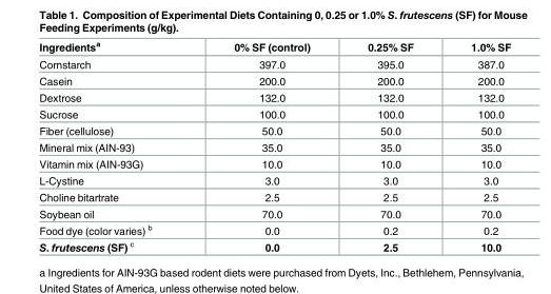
<table><thead><tr><td>Ingredients<sup>a</sup></td><td>0% SF (control)</td><td>0.25% SF</td><td>1.0% SF</td></tr></thead><tbody><tr><td>Cornstarch</td><td>397.0</td><td>395.0</td><td>387.0</td></tr><tr><td>Casein</td><td>200.0</td><td>200.0</td><td>200.0</td></tr><tr><td>Dextrose</td><td>132.0</td><td>132.0</td><td>132.0</td></tr><tr><td>Sucrose</td><td>100.0</td><td>100.0</td><td>100.0</td></tr><tr><td>Fiber (cellulose)</td><td>50.0</td><td>50.0</td><td>50.0</td></tr><tr><td>Mineral mix (AIN-93)</td><td>35.0</td><td>35.0</td><td>35.0</td></tr><tr><td>Vitamin mix (AIN-93G)</td><td>10.0</td><td>10.0</td><td>10.0</td></tr><tr><td>L-Cystine</td><td>3.0</td><td>3.0</td><td>3.0</td></tr><tr><td>Choline bitartrate</td><td>2.5</td><td>2.5</td><td>2.5</td></tr><tr><td>Soybean oil</td><td>70.0</td><td>70.0</td><td>70.0</td></tr><tr><td>Food dye (color varies) <sup>b</sup></td><td>0.0</td><td>0.2</td><td>0.2</td></tr><tr><td>S. frutescens (SF) <sup>c</sup></td><td>0.0</td><td>2.5</td><td>10.0</td></tr></tbody></table>